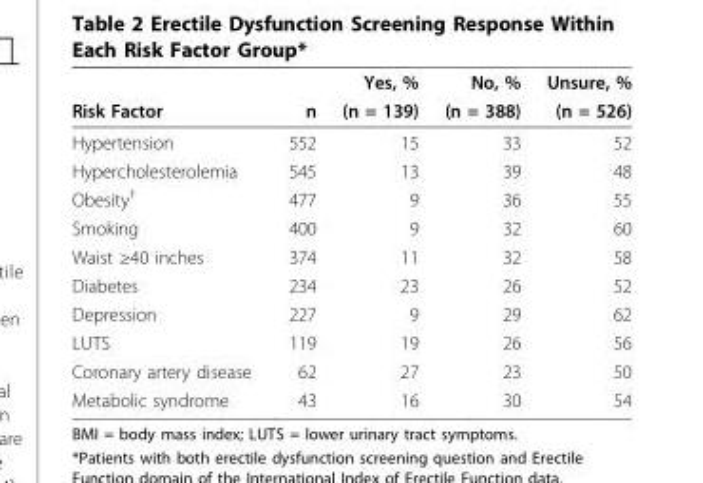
<table><thead><tr><td rowspan="2">Risk Factor</td><td rowspan="2">n</td><td rowspan="2">Yes, % (n = 139)</td><td rowspan="2">No, % (n = 388)</td><td rowspan="2">Unsure, % (n = 526)</td></tr><tr></tr></thead><tbody><tr><td>Hypertension</td><td>552</td><td>15</td><td>33</td><td>52</td></tr><tr><td>Hypercholesterolemia</td><td>545</td><td>13</td><td>39</td><td>48</td></tr><tr><td>Obesity<sup>†</sup></td><td>477</td><td>9</td><td>36</td><td>55</td></tr><tr><td>Smoking</td><td>400</td><td>9</td><td>32</td><td>60</td></tr><tr><td>Waist ≥40 inches</td><td>374</td><td>11</td><td>32</td><td>58</td></tr><tr><td>Diabetes</td><td>234</td><td>23</td><td>26</td><td>52</td></tr><tr><td>Depression</td><td>227</td><td>9</td><td>29</td><td>62</td></tr><tr><td>LUTS</td><td>119</td><td>19</td><td>26</td><td>56</td></tr><tr><td>Coronary artery disease</td><td>62</td><td>27</td><td>23</td><td>50</td></tr><tr><td>Metabolic syndrome</td><td>43</td><td>16</td><td>30</td><td>54</td></tr></tbody></table>